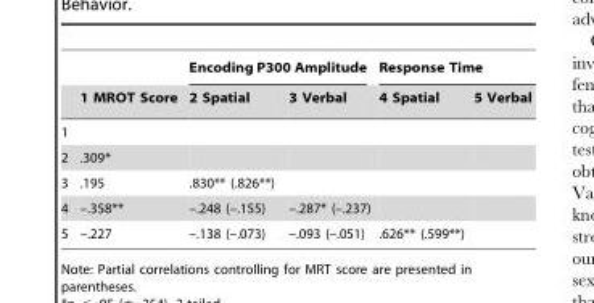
<table><thead><tr><td rowspan="2"></td><td rowspan="2">1 MROT Score</td><td colspan="2">Encoding P300 Amplitude</td><td colspan="2">Response Time</td></tr><tr><td>2 Spatial</td><td>3 Verbal</td><td>4 Spatial</td><td>5 Verbal</td></tr></thead><tbody><tr><td colspan="6">1</td></tr><tr><td>2</td><td>.309*</td><td></td><td></td><td></td><td></td></tr><tr><td>3</td><td>.195</td><td>.830** (.826**)</td><td></td><td></td><td></td></tr><tr><td>4</td><td>–.358**</td><td>–.248 (–.155)</td><td>–.287* (–.237)</td><td></td><td></td></tr><tr><td>5</td><td>–.227</td><td>–.138 (–.073)</td><td>–.093 (–.051)</td><td>.626** (.599**)</td><td></td></tr></tbody></table>